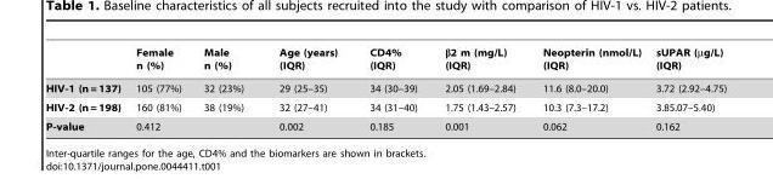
<table><thead><tr><td></td><td>Female n (%)</td><td>Male n (%)</td><td>Age (years) (IQR)</td><td>CD4% (IQR)</td><td>β2 m (mg/L) (IQR)</td><td>Neopterin (nmol/L) (IQR)</td><td>sUPAR (µg/L) (IQR)</td></tr></thead><tbody><tr><td>HIV-1 (n = 137)</td><td>105 (77%)</td><td>32 (23%)</td><td>29 (25–35)</td><td>34 (30–39)</td><td>2.05 (1.69–2.84)</td><td>11.6 (8.0–20.0)</td><td>3.72 (2.92–4.75)</td></tr><tr><td>HIV-2 (n = 198)</td><td>160 (81%)</td><td>38 (19%)</td><td>32 (27–41)</td><td>34 (31–40)</td><td>1.75 (1.43–2.57)</td><td>10.3 (7.3–17.2)</td><td>3.85.07–5.40)</td></tr><tr><td>P-value</td><td colspan="2">0.412</td><td>0.002</td><td>0.185</td><td>0.001</td><td>0.062</td><td>0.162</td></tr></tbody></table>